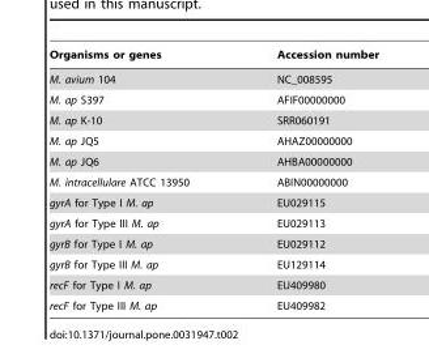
<table><thead><tr><td>Organisms or genes</td><td>Accession number</td></tr></thead><tbody><tr><td>M. avium 104</td><td>NC_008595</td></tr><tr><td>M. ap S397</td><td>AFIF00000000</td></tr><tr><td>M. ap K-10</td><td>SRR060191</td></tr><tr><td>M. ap JQ5</td><td>AHAZ00000000</td></tr><tr><td>M. ap JQ6</td><td>AHBA00000000</td></tr><tr><td>M. intracellulare ATCC 13950</td><td>ABIN00000000</td></tr><tr><td>gyrA for Type I M. ap</td><td>EU029115</td></tr><tr><td>gyrA for Type III M. ap</td><td>EU029113</td></tr><tr><td>gyrB for Type I M. ap</td><td>EU029112</td></tr><tr><td>gyrB for Type III M. ap</td><td>EU129114</td></tr><tr><td>recF for Type I M. ap</td><td>EU409980</td></tr><tr><td>recF for Type III M. ap</td><td>EU409982</td></tr></tbody></table>